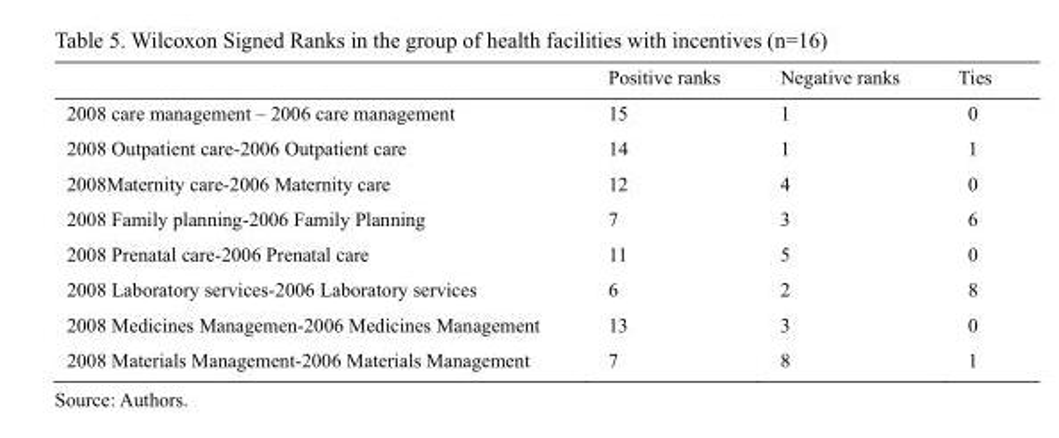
<table><thead><tr><td></td><td>Positive ranks</td><td>Negative ranks</td><td>Ties</td></tr></thead><tbody><tr><td>2008 care management – 2006 care management</td><td>15</td><td>1</td><td>0</td></tr><tr><td>2008 Outpatient care-2006 Outpatient care</td><td>14</td><td>1</td><td>1</td></tr><tr><td>2008Maternity care-2006 Maternity care</td><td>12</td><td>4</td><td>0</td></tr><tr><td>2008 Family planning-2006 Family Planning</td><td>7</td><td>3</td><td>6</td></tr><tr><td>2008 Prenatal care-2006 Prenatal care</td><td>11</td><td>5</td><td>0</td></tr><tr><td>2008 Laboratory services-2006 Laboratory services</td><td>6</td><td>2</td><td>8</td></tr><tr><td>2008 Medicines Managemen-2006 Medicines Management</td><td>13</td><td>3</td><td>0</td></tr><tr><td>2008 Materials Management-2006 Materials Management</td><td>7</td><td>8</td><td>1</td></tr></tbody></table>